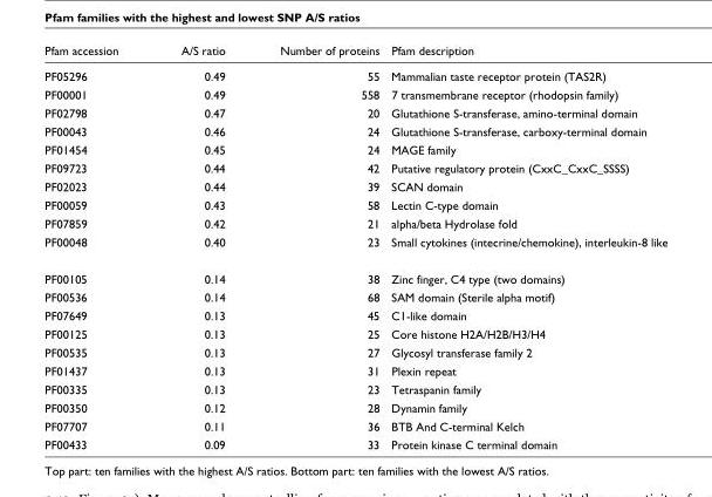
<table><thead><tr><td>Pfam accession</td><td>A/S ratio</td><td>Number of proteins</td><td>Pfam description</td></tr></thead><tbody><tr><td>PF05296</td><td>0.49</td><td>55</td><td>Mammalian taste receptor protein (TAS2R)</td></tr><tr><td>PF00001</td><td>0.49</td><td>558</td><td>7 transmembrane receptor (rhodopsin family)</td></tr><tr><td>PF02798</td><td>0.47</td><td>20</td><td>Glutathione S-transferase, amino-terminal domain</td></tr><tr><td>PF00043</td><td>0.46</td><td>24</td><td>Glutathione S-transferase, carboxy-terminal domain</td></tr><tr><td>PF01454</td><td>0.45</td><td>24</td><td>MAGE family</td></tr><tr><td>PF09723</td><td>0.44</td><td>42</td><td>Putative regulatory protein (CxxC_CxxC_SSSS)</td></tr><tr><td>PF02023</td><td>0.44</td><td>39</td><td>SCAN domain</td></tr><tr><td>PF00059</td><td>0.43</td><td>58</td><td>Lectin C-type domain</td></tr><tr><td>PF07859</td><td>0.42</td><td>21</td><td>alpha/beta Hydrolase fold</td></tr><tr><td>PF00048</td><td>0.40</td><td>23</td><td>Small cytokines (intecrine/chemokine), interleukin-8 like</td></tr><tr><td>PF00105</td><td>0.14</td><td>38</td><td>Zinc finger, C4 type (two domains)</td></tr><tr><td>PF00536</td><td>0.14</td><td>68</td><td>SAM domain (Sterile alpha motif)</td></tr><tr><td>PF07649</td><td>0.13</td><td>45</td><td>C1-like domain</td></tr><tr><td>PF00125</td><td>0.13</td><td>25</td><td>Core histone H2A/H2B/H3/H4</td></tr><tr><td>PF00535</td><td>0.13</td><td>27</td><td>Glycosyl transferase family 2</td></tr><tr><td>PF01437</td><td>0.13</td><td>31</td><td>Plexin repeat</td></tr><tr><td>PF00335</td><td>0.13</td><td>23</td><td>Tetraspanin family</td></tr><tr><td>PF00350</td><td>0.12</td><td>28</td><td>Dynamin family</td></tr><tr><td>PF07707</td><td>0.11</td><td>36</td><td>BTB And C-terminal Kelch</td></tr><tr><td>PF00433</td><td>0.09</td><td>33</td><td>Protein kinase C terminal domain</td></tr></tbody></table>